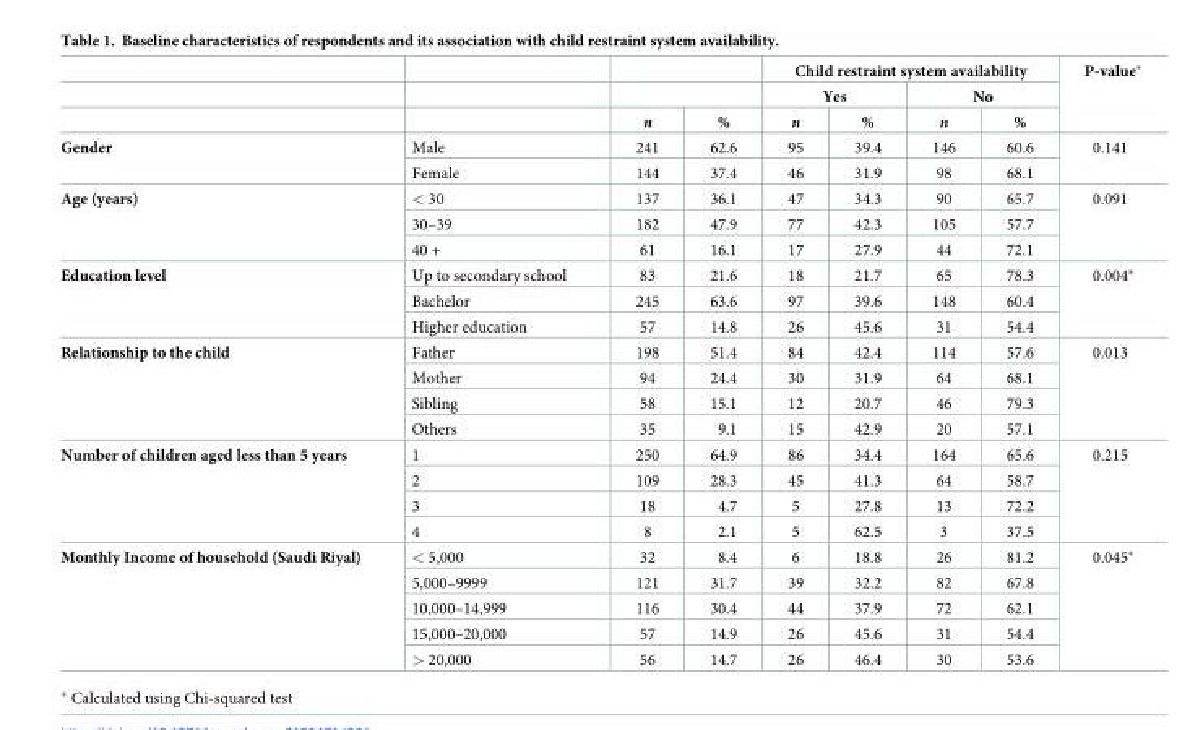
<table><thead><tr><td rowspan="3"></td><td rowspan="3"></td><td rowspan="3">n</td><td rowspan="3">%</td><td colspan="4">Child restraint system availability</td><td rowspan="3">P-value*</td></tr><tr><td colspan="2">Yes</td><td colspan="2">No</td></tr><tr><td>n</td><td>%</td><td>n</td><td>%</td></tr></thead><tbody><tr><td rowspan="2">Gender</td><td>Male</td><td>241</td><td>62.6</td><td>95</td><td>39.4</td><td>146</td><td>60.6</td><td rowspan="2">0.141</td></tr><tr><td>Female</td><td>144</td><td>37.4</td><td>46</td><td>31.9</td><td>98</td><td>68.1</td></tr><tr><td rowspan="3">Age (years)</td><td>&lt; 30</td><td>137</td><td>36.1</td><td>47</td><td>34.3</td><td>90</td><td>65.7</td><td rowspan="3">0.091</td></tr><tr><td>30–39</td><td>182</td><td>47.9</td><td>77</td><td>42.3</td><td>105</td><td>57.7</td></tr><tr><td>40 +</td><td>61</td><td>16.1</td><td>17</td><td>27.9</td><td>44</td><td>72.1</td></tr><tr><td rowspan="3">Education level</td><td>Up to secondary school</td><td>83</td><td>21.6</td><td>18</td><td>21.7</td><td>65</td><td>78.3</td><td rowspan="3">0.004*</td></tr><tr><td>Bachelor</td><td>245</td><td>63.6</td><td>97</td><td>39.6</td><td>148</td><td>60.4</td></tr><tr><td>Higher education</td><td>57</td><td>14.8</td><td>26</td><td>45.6</td><td>31</td><td>54.4</td></tr><tr><td rowspan="4">Relationship to the child</td><td>Father</td><td>198</td><td>51.4</td><td>84</td><td>42.4</td><td>114</td><td>57.6</td><td rowspan="4">0.013</td></tr><tr><td>Mother</td><td>94</td><td>24.4</td><td>30</td><td>31.9</td><td>64</td><td>68.1</td></tr><tr><td>Sibling</td><td>58</td><td>15.1</td><td>12</td><td>20.7</td><td>46</td><td>79.3</td></tr><tr><td>Others</td><td>35</td><td>9.1</td><td>15</td><td>42.9</td><td>20</td><td>57.1</td></tr><tr><td rowspan="4">Number of children aged less than 5 years</td><td>1</td><td>250</td><td>64.9</td><td>86</td><td>34.4</td><td>164</td><td>65.6</td><td rowspan="4">0.215</td></tr><tr><td>2</td><td>109</td><td>28.3</td><td>45</td><td>41.3</td><td>64</td><td>58.7</td></tr><tr><td>3</td><td>18</td><td>4.7</td><td>5</td><td>27.8</td><td>13</td><td>72.2</td></tr><tr><td>4</td><td>8</td><td>2.1</td><td>5</td><td>62.5</td><td>3</td><td>37.5</td></tr><tr><td rowspan="5">Monthly Income of household (Saudi Riyal)</td><td>&lt; 5,000</td><td>32</td><td>8.4</td><td>6</td><td>18.8</td><td>26</td><td>81.2</td><td rowspan="5">0.045*</td></tr><tr><td>5,000–9999</td><td>121</td><td>31.7</td><td>39</td><td>32.2</td><td>82</td><td>67.8</td></tr><tr><td>10,000–14,999</td><td>116</td><td>30.4</td><td>44</td><td>37.9</td><td>72</td><td>62.1</td></tr><tr><td>15,000–20,000</td><td>57</td><td>14.9</td><td>26</td><td>45.6</td><td>31</td><td>54.4</td></tr><tr><td>&gt; 20,000</td><td>56</td><td>14.7</td><td>26</td><td>46.4</td><td>30</td><td>53.6</td></tr></tbody></table>